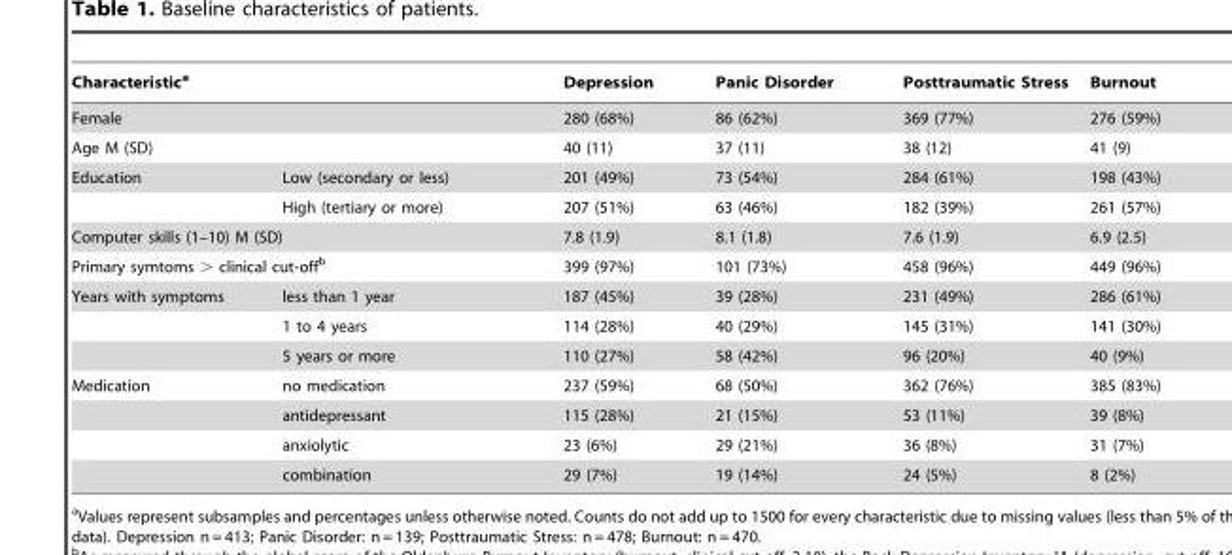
<table><thead><tr><td rowspan="3" colspan="2">Characteristic<sup>a</sup> Female Age M (SD)</td><td rowspan="4">Depression 280 (68%) 40 (11) 201 (49%)</td><td rowspan="4">Panic Disorder 86 (62%) 37 (11) 73 (54%)</td><td rowspan="4">Posttraumatic Stress 369 (77%) 38 (12) 284 (61%)</td><td rowspan="4">Burnout 276 (59%) 41 (9) 198 (43%)</td></tr><tr></tr><tr></tr><tr><td>Education</td><td>Low (secondary or less)</td></tr></thead><tbody><tr><td></td><td>High (tertiary or more)</td><td>207 (51%)</td><td>63 (46%)</td><td>182 (39%)</td><td>261 (57%)</td></tr><tr><td colspan="2">Computer skills (1–10) M (SD)</td><td>7.8 (1.9)</td><td>8.1 (1.8)</td><td>7.6 (1.9)</td><td>6.9 (2.5)</td></tr><tr><td colspan="2">Primary symtoms &gt; clinical cut-off<sup>b</sup></td><td>399 (97%)</td><td>101 (73%)</td><td>458 (96%)</td><td>449 (96%)</td></tr><tr><td rowspan="3">Years with symptoms</td><td>less than 1 year</td><td>187 (45%)</td><td>39 (28%)</td><td>231 (49%)</td><td>286 (61%)</td></tr><tr><td>1 to 4 years</td><td>114 (28%)</td><td>40 (29%)</td><td>145 (31%)</td><td>141 (30%)</td></tr><tr><td>5 years or more</td><td>110 (27%)</td><td>58 (42%)</td><td>96 (20%)</td><td>40 (9%)</td></tr><tr><td rowspan="4">Medication</td><td>no medication</td><td>237 (59%)</td><td>68 (50%)</td><td>362 (76%)</td><td>385 (83%)</td></tr><tr><td>antidepressant</td><td>115 (28%)</td><td>21 (15%)</td><td>53 (11%)</td><td>39 (8%)</td></tr><tr><td>anxiolytic</td><td>23 (6%)</td><td>29 (21%)</td><td>36 (8%)</td><td>31 (7%)</td></tr><tr><td>combination</td><td>29 (7%)</td><td>19 (14%)</td><td>24 (5%)</td><td>8 (2%)</td></tr></tbody></table>